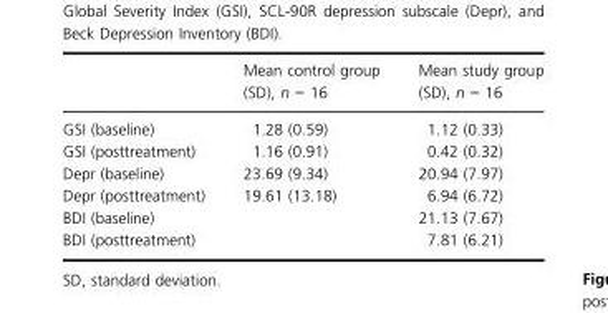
<table><thead><tr><td></td><td>Mean control group (SD), n = 16</td><td>Mean study group (SD), n = 16</td></tr></thead><tbody><tr><td>GSI (baseline)</td><td>1.28 (0.59)</td><td>1.12 (0.33)</td></tr><tr><td>GSI (posttreatment)</td><td>1.16 (0.91)</td><td>0.42 (0.32)</td></tr><tr><td>Depr (baseline)</td><td>23.69 (9.34)</td><td>20.94 (7.97)</td></tr><tr><td>Depr (posttreatment)</td><td>19.61 (13.18)</td><td>6.94 (6.72)</td></tr><tr><td colspan="2">BDI (baseline)</td><td>21.13 (7.67)</td></tr><tr><td colspan="2">BDI (posttreatment)</td><td>7.81 (6.21)</td></tr></tbody></table>